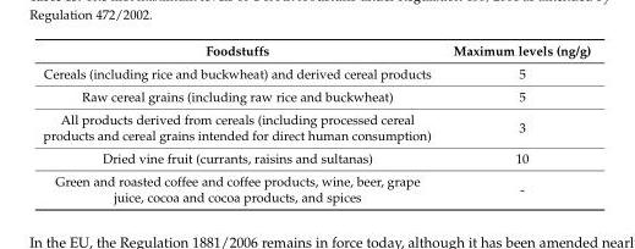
<table><thead><tr><td>Foodstuffs</td><td>Maximum levels (ng/g)</td></tr></thead><tbody><tr><td>Cereals (including rice and buckwheat) and derived cereal products</td><td>5</td></tr><tr><td>Raw cereal grains (including raw rice and buckwheat)</td><td>5</td></tr><tr><td>All products derived from cereals (including processed cereal products and cereal grains intended for direct human consumption)</td><td>3</td></tr><tr><td>Dried vine fruit (currants, raisins and sultanas)</td><td>10</td></tr><tr><td>Green and roasted coffee and coffee products, wine, beer, grape juice, cocoa and cocoa products, and spices</td><td>-</td></tr></tbody></table>